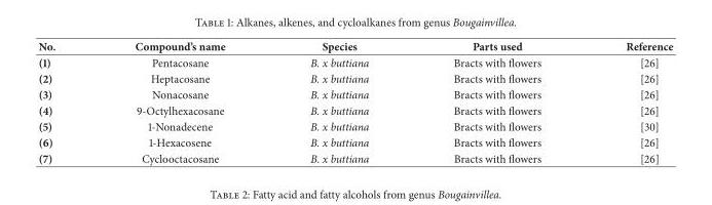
<table><thead><tr><td>No.</td><td>Compound’s name</td><td>Species</td><td>Parts used</td><td>Reference</td></tr></thead><tbody><tr><td>(1)</td><td>Pentacosane</td><td>B. x buttiana</td><td>Bracts with flowers</td><td>[26]</td></tr><tr><td>(2)</td><td>Heptacosane</td><td>B. x buttiana</td><td>Bracts with flowers</td><td>[26]</td></tr><tr><td>(3)</td><td>Nonacosane</td><td>B. x buttiana</td><td>Bracts with flowers</td><td>[26]</td></tr><tr><td>(4)</td><td>9-Octylhexacosane</td><td>B. x buttiana</td><td>Bracts with flowers</td><td>[26]</td></tr><tr><td>(5)</td><td>1-Nonadecene</td><td>B. x buttiana</td><td>Bracts with flowers</td><td>[30]</td></tr><tr><td>(6)</td><td>1-Hexacosene</td><td>B. x buttiana</td><td>Bracts with flowers</td><td>[26]</td></tr><tr><td>(7)</td><td>Cyclooctacosane</td><td>B. x buttiana</td><td>Bracts with flowers</td><td>[26]</td></tr></tbody></table>